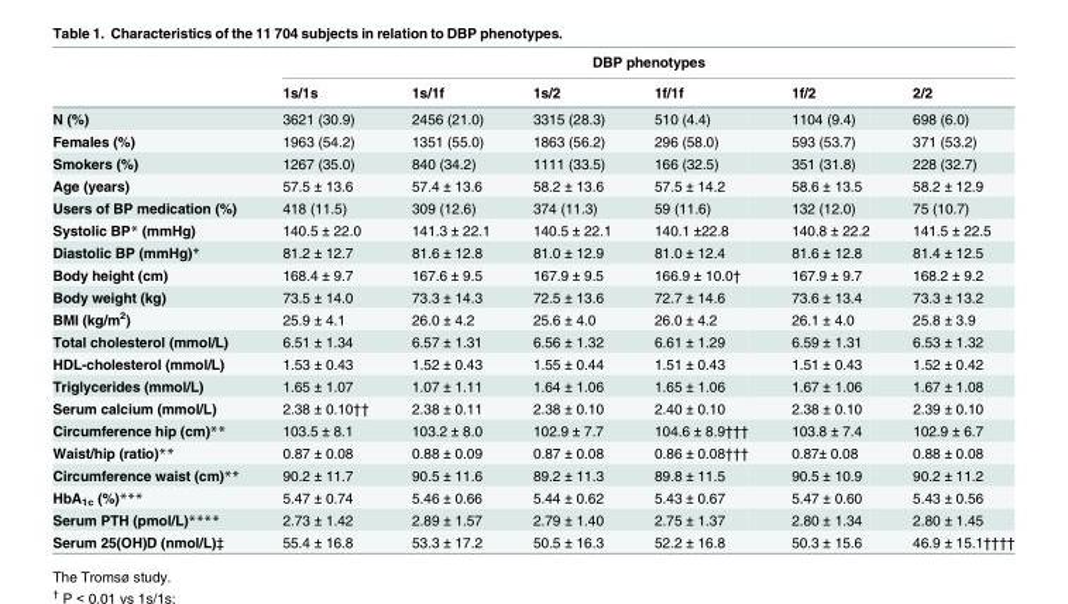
<table><thead><tr><td rowspan="2"></td><td colspan="6">DBP phenotypes</td></tr><tr><td>1s/1s</td><td>1s/1f</td><td>1s/2</td><td>1f/1f</td><td>1f/2</td><td>2/2</td></tr></thead><tbody><tr><td>N (%)</td><td>3621 (30.9)</td><td>2456 (21.0)</td><td>3315 (28.3)</td><td>510 (4.4)</td><td>1104 (9.4)</td><td>698 (6.0)</td></tr><tr><td>Females (%)</td><td>1963 (54.2)</td><td>1351 (55.0)</td><td>1863 (56.2)</td><td>296 (58.0)</td><td>593 (53.7)</td><td>371 (53.2)</td></tr><tr><td>Smokers (%)</td><td>1267 (35.0)</td><td>840 (34.2)</td><td>1111 (33.5)</td><td>166 (32.5)</td><td>351 (31.8)</td><td>228 (32.7)</td></tr><tr><td>Age (years)</td><td>57.5 ± 13.6</td><td>57.4 ± 13.6</td><td>58.2 ± 13.6</td><td>57.5 ± 14.2</td><td>58.6 ± 13.5</td><td>58.2 ± 12.9</td></tr><tr><td>Users of BP medication (%)</td><td>418 (11.5)</td><td>309 (12.6)</td><td>374 (11.3)</td><td>59 (11.6)</td><td>132 (12.0)</td><td>75 (10.7)</td></tr><tr><td>Systolic BP* (mmHg)</td><td>140.5 ± 22.0</td><td>141.3 ± 22.1</td><td>140.5 ± 22.1</td><td>140.1 ±22.8</td><td>140.8 ± 22.2</td><td>141.5 ± 22.5</td></tr><tr><td>Diastolic BP (mmHg)*</td><td>81.2 ± 12.7</td><td>81.6 ± 12.8</td><td>81.0 ± 12.9</td><td>81.0 ± 12.4</td><td>81.6 ± 12.8</td><td>81.4 ± 12.5</td></tr><tr><td>Body height (cm)</td><td>168.4 ± 9.7</td><td>167.6 ± 9.5</td><td>167.9 ± 9.5</td><td>166.9 ± 10.0†</td><td>167.9 ± 9.7</td><td>168.2 ± 9.2</td></tr><tr><td>Body weight (kg)</td><td>73.5 ± 14.0</td><td>73.3 ± 14.3</td><td>72.5 ± 13.6</td><td>72.7 ± 14.6</td><td>73.6 ± 13.4</td><td>73.3 ± 13.2</td></tr><tr><td>BMI (kg/m<sup>2</sup>)</td><td>25.9 ± 4.1</td><td>26.0 ± 4.2</td><td>25.6 ± 4.0</td><td>26.0 ± 4.2</td><td>26.1 ± 4.0</td><td>25.8 ± 3.9</td></tr><tr><td>Total cholesterol (mmol/L)</td><td>6.51 ± 1.34</td><td>6.57 ± 1.31</td><td>6.56 ± 1.32</td><td>6.61 ± 1.29</td><td>6.59 ± 1.31</td><td>6.53 ± 1.32</td></tr><tr><td>HDL-cholesterol (mmol/L)</td><td>1.53 ± 0.43</td><td>1.52 ± 0.43</td><td>1.55 ± 0.44</td><td>1.51 ± 0.43</td><td>1.51 ± 0.43</td><td>1.52 ± 0.42</td></tr><tr><td>Triglycerides (mmol/L)</td><td>1.65 ± 1.07</td><td>1.07 ± 1.11</td><td>1.64 ± 1.06</td><td>1.65 ± 1.06</td><td>1.67 ± 1.06</td><td>1.67 ± 1.08</td></tr><tr><td>Serum calcium (mmol/L)</td><td>2.38 ± 0.10††</td><td>2.38 ± 0.11</td><td>2.38 ± 0.10</td><td>2.40 ± 0.10</td><td>2.38 ± 0.10</td><td>2.39 ± 0.10</td></tr><tr><td>Circumference hip (cm)**</td><td>103.5 ± 8.1</td><td>103.2 ± 8.0</td><td>102.9 ± 7.7</td><td>104.6 ± 8.9†††</td><td>103.8 ± 7.4</td><td>102.9 ± 6.7</td></tr><tr><td>Waist/hip (ratio)**</td><td>0.87 ± 0.08</td><td>0.88 ± 0.09</td><td>0.87 ± 0.08</td><td>0.86 ± 0.08†††</td><td>0.87± 0.08</td><td>0.88 ± 0.08</td></tr><tr><td>Circumference waist (cm)**</td><td>90.2 ± 11.7</td><td>90.5 ± 11.6</td><td>89.2 ± 11.3</td><td>89.8 ± 11.5</td><td>90.5 ± 10.9</td><td>90.2 ± 11.2</td></tr><tr><td>HbA<sub>1c</sub> (%)***</td><td>5.47 ± 0.74</td><td>5.46 ± 0.66</td><td>5.44 ± 0.62</td><td>5.43 ± 0.67</td><td>5.47 ± 0.60</td><td>5.43 ± 0.56</td></tr><tr><td>Serum PTH (pmol/L)****</td><td>2.73 ± 1.42</td><td>2.89 ± 1.57</td><td>2.79 ± 1.40</td><td>2.75 ± 1.37</td><td>2.80 ± 1.34</td><td>2.80 ± 1.45</td></tr><tr><td>Serum 25(OH)D (nmol/L)‡</td><td>55.4 ± 16.8</td><td>53.3 ± 17.2</td><td>50.5 ± 16.3</td><td>52.2 ± 16.8</td><td>50.3 ± 15.6</td><td>46.9 ± 15.1††††</td></tr></tbody></table>